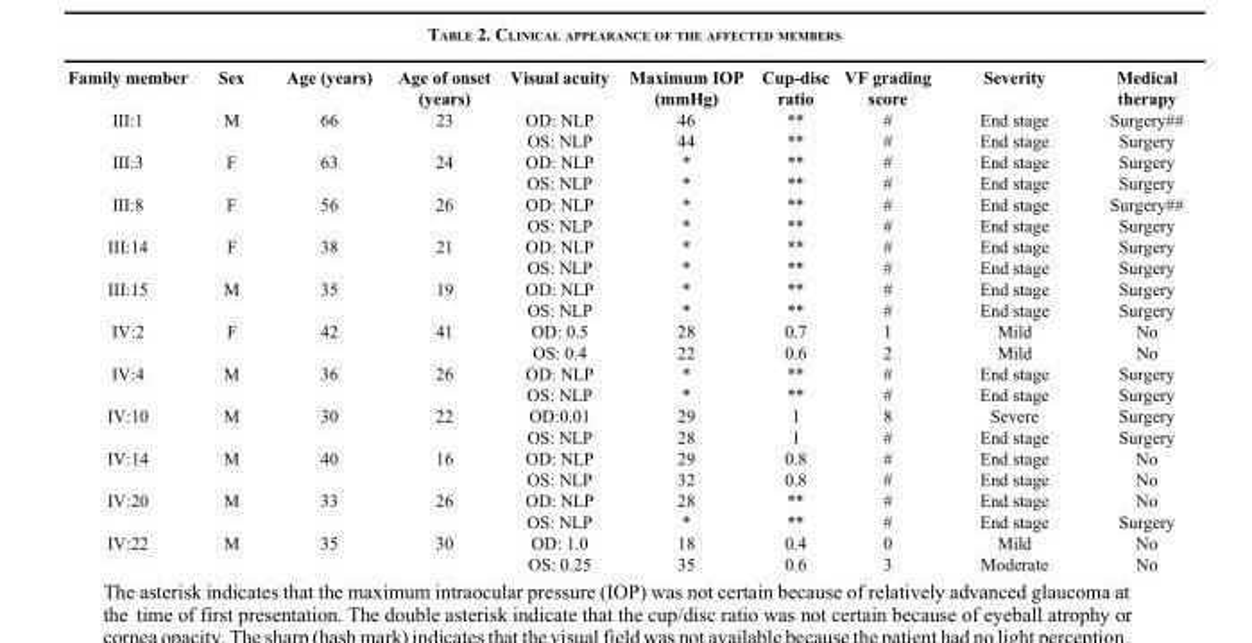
<table><thead><tr><td>Family member</td><td>Sex</td><td>Age (years)</td><td>Age of onset (years)</td><td>Visual acuity</td><td>Maximum IOP (mmHg)</td><td>Cup-disc ratio</td><td>VF grading score</td><td>Severity</td><td>Medical therapy</td></tr></thead><tbody><tr><td rowspan="2">III:1</td><td>M</td><td>66</td><td>23</td><td>OD: NLP</td><td>46</td><td>**</td><td>#</td><td>End stage</td><td>Surgery##</td></tr><tr><td></td><td></td><td></td><td>OS: NLP</td><td>44</td><td>**</td><td>#</td><td>End stage</td><td>Surgery</td></tr><tr><td rowspan="2">III:3</td><td>F</td><td>63</td><td>24</td><td>OD: NLP</td><td>*</td><td>**</td><td>#</td><td>End stage</td><td>Surgery</td></tr><tr><td></td><td></td><td></td><td>OS: NLP</td><td>*</td><td>**</td><td>#</td><td>End stage</td><td>Surgery</td></tr><tr><td rowspan="2">III:8</td><td>F</td><td>56</td><td>26</td><td>OD: NLP</td><td>*</td><td>**</td><td>#</td><td>End stage</td><td>Surgery##</td></tr><tr><td></td><td></td><td></td><td>OS: NLP</td><td>*</td><td>**</td><td>#</td><td>End stage</td><td>Surgery</td></tr><tr><td rowspan="2">III:14</td><td>F</td><td>38</td><td>21</td><td>OD: NLP</td><td>*</td><td>**</td><td>#</td><td>End stage</td><td>Surgery</td></tr><tr><td></td><td></td><td></td><td>OS: NLP</td><td>*</td><td>**</td><td>#</td><td>End stage</td><td>Surgery</td></tr><tr><td rowspan="2">III:15</td><td>M</td><td>35</td><td>19</td><td>OD: NLP</td><td>*</td><td>**</td><td>#</td><td>End stage</td><td>Surgery</td></tr><tr><td></td><td></td><td></td><td>OS: NLP</td><td>*</td><td>**</td><td>#</td><td>End stage</td><td>Surgery</td></tr><tr><td rowspan="2">IV:2</td><td>F</td><td>42</td><td>41</td><td>OD: 0.5</td><td>28</td><td>0.7</td><td>1</td><td>Mild</td><td>No</td></tr><tr><td></td><td></td><td></td><td>OS: 0.4</td><td>22</td><td>0.6</td><td>2</td><td>Mild</td><td>No</td></tr><tr><td rowspan="2">IV:4</td><td>M</td><td>36</td><td>26</td><td>OD: NLP</td><td>*</td><td>**</td><td>#</td><td>End stage</td><td>Surgery</td></tr><tr><td></td><td></td><td></td><td>OS: NLP</td><td>*</td><td>**</td><td>#</td><td>End stage</td><td>Surgery</td></tr><tr><td rowspan="2">IV:10</td><td>M</td><td>30</td><td>22</td><td>OD:0.01</td><td>29</td><td>1</td><td>8</td><td>Severe</td><td>Surgery</td></tr><tr><td></td><td></td><td></td><td>OS: NLP</td><td>28</td><td>1</td><td>#</td><td>End stage</td><td>Surgery</td></tr><tr><td rowspan="2">IV:14</td><td>M</td><td>40</td><td>16</td><td>OD: NLP</td><td>29</td><td>0.8</td><td>#</td><td>End stage</td><td>No</td></tr><tr><td></td><td></td><td></td><td>OS: NLP</td><td>32</td><td>0.8</td><td>#</td><td>End stage</td><td>No</td></tr><tr><td rowspan="2">IV:20</td><td>M</td><td>33</td><td>26</td><td>OD: NLP</td><td>28</td><td>**</td><td>#</td><td>End stage</td><td>No</td></tr><tr><td></td><td></td><td></td><td>OS: NLP</td><td>*</td><td>**</td><td>#</td><td>End stage</td><td>Surgery</td></tr><tr><td rowspan="2">IV:22</td><td>M</td><td>35</td><td>30</td><td>OD: 1.0</td><td>18</td><td>0.4</td><td>0</td><td>Mild</td><td>No</td></tr><tr><td></td><td></td><td></td><td>OS: 0.25</td><td>35</td><td>0.6</td><td>3</td><td>Moderate</td><td>No</td></tr></tbody></table>